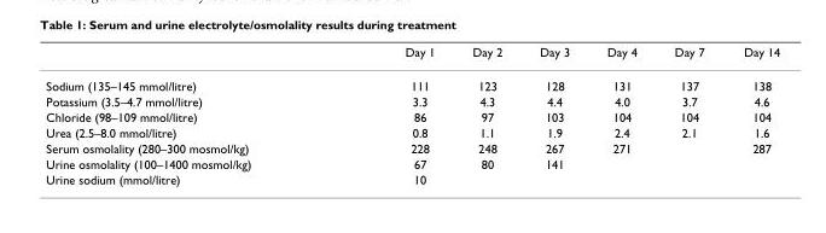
<table><thead><tr><td></td><td>Day 1</td><td>Day 2</td><td>Day 3</td><td>Day 4</td><td>Day 7</td><td>Day 14</td></tr></thead><tbody><tr><td>Sodium (135–145 mmol/litre)</td><td>111</td><td>123</td><td>128</td><td>131</td><td>137</td><td>138</td></tr><tr><td>Potassium (3.5–4.7 mmol/litre)</td><td>3.3</td><td>4.3</td><td>4.4</td><td>4.0</td><td>3.7</td><td>4.6</td></tr><tr><td>Chloride (98–109 mmol/litre)</td><td>86</td><td>97</td><td>103</td><td>104</td><td>104</td><td>104</td></tr><tr><td>Urea (2.5–8.0 mmol/litre)</td><td>0.8</td><td>1.1</td><td>1.9</td><td>2.4</td><td>2.1</td><td>1.6</td></tr><tr><td>Serum osmolality (280–300 mosmol/kg)</td><td>228</td><td>248</td><td>267</td><td>271</td><td></td><td>287</td></tr><tr><td>Urine osmolality (100–1400 mosmol/kg)</td><td>67</td><td>80</td><td>141</td><td></td><td></td><td></td></tr><tr><td>Urine sodium (mmol/litre)</td><td>10</td><td></td><td></td><td></td><td></td><td></td></tr></tbody></table>